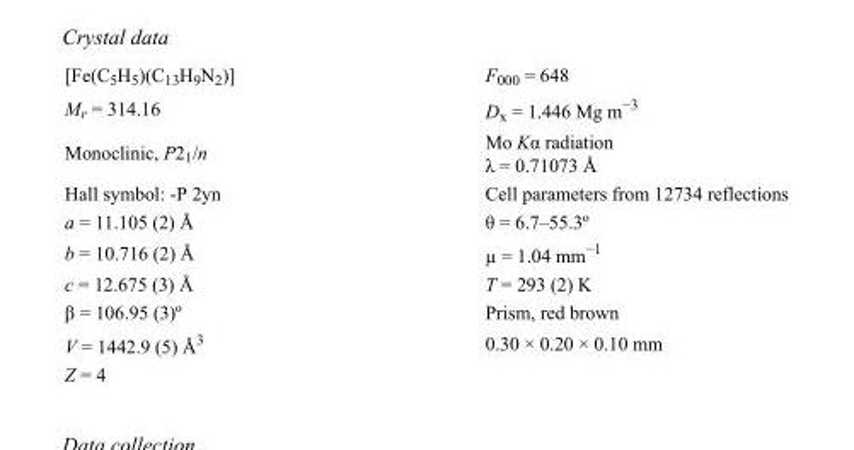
<table><tbody><tr><td>[Fe(C<sub>5</sub>H<sub>5</sub>)(C<sub>13</sub>H<sub>9</sub>N<sub>2</sub>)]</td><td>F<sub>000</sub> = 648</td></tr><tr><td>M<sub>r</sub> = 314.16</td><td>D<sub>x</sub> = 1.446 Mg m<sup>−3</sup></td></tr><tr><td>Monoclinic, P2<sub>1</sub>/n</td><td>Mo Kα radiation λ = 0.71073 Å</td></tr><tr><td>Hall symbol: -P 2yn</td><td>Cell parameters from 12734 reflections</td></tr><tr><td>a = 11.105 (2) Å</td><td>θ = 6.7–55.3º</td></tr><tr><td>b = 10.716 (2) Å</td><td>µ = 1.04 mm<sup>−1</sup></td></tr><tr><td>c = 12.675 (3) Å</td><td>T = 293 (2) K</td></tr><tr><td>β = 106.95 (3)º</td><td>Prism, red brown</td></tr><tr><td>V = 1442.9 (5) Å<sup>3</sup></td><td>0.30 × 0.20 × 0.10 mm</td></tr><tr><td>Z = 4</td><td></td></tr></tbody></table>